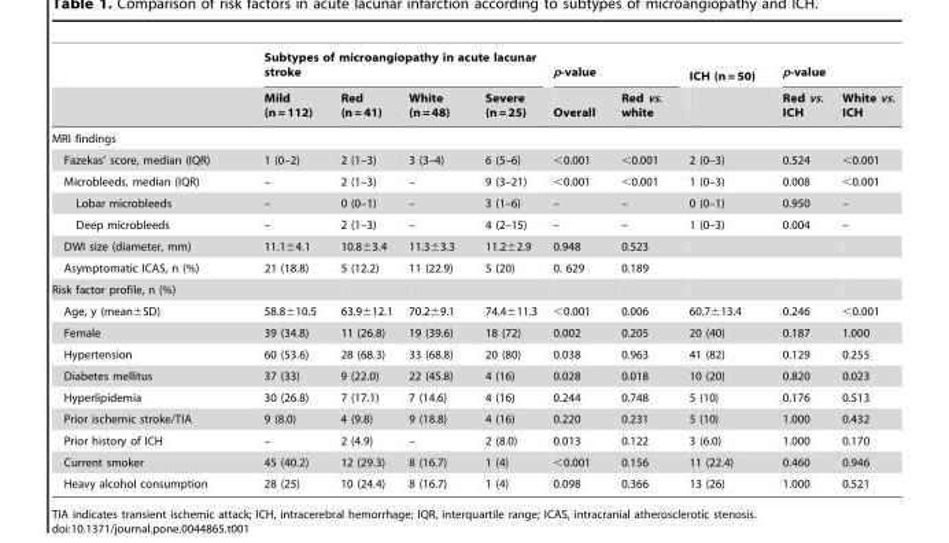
<table><thead><tr><td rowspan="2"></td><td colspan="4">Subtypes of microangiopathy in acute lacunar stroke</td><td colspan="2">p-value</td><td rowspan="2">ICH (n = 50)</td><td colspan="2">p-value</td></tr><tr><td>Mild (n = 112)</td><td>Red (n = 41)</td><td>White (n = 48)</td><td>Severe (n = 25)</td><td>Overall</td><td>Red vs. white</td><td>Red vs. ICH</td><td>White vs. ICH</td></tr></thead><tbody><tr><td colspan="10">MRI findings</td></tr><tr><td>Fazekas’ score, median (IQR)</td><td>1 (0–2)</td><td>2 (1–3)</td><td>3 (3–4)</td><td>6 (5–6)</td><td>&lt;0.001</td><td>&lt;0.001</td><td>2 (0–3)</td><td>0.524</td><td>&lt;0.001</td></tr><tr><td>Microbleeds, median (IQR)</td><td>–</td><td>2 (1–3)</td><td>–</td><td>9 (3–21)</td><td>&lt;0.001</td><td>&lt;0.001</td><td>1 (0–3)</td><td>0.008</td><td>&lt;0.001</td></tr><tr><td>Lobar microbleeds</td><td>–</td><td>0 (0–1)</td><td>–</td><td>3 (1–6)</td><td>–</td><td>–</td><td>0 (0–1)</td><td>0.950</td><td>–</td></tr><tr><td>Deep microbleeds</td><td>–</td><td>2 (1–3)</td><td>–</td><td>4 (2–15)</td><td>–</td><td>–</td><td>1 (0–3)</td><td>0.004</td><td>–</td></tr><tr><td>DWI size (diameter, mm)</td><td>11.1±4.1</td><td>10.8±3.4</td><td>11.3±3.3</td><td>11.2±2.9</td><td>0.948</td><td>0.523</td><td></td><td></td><td></td></tr><tr><td>Asymptomatic ICAS, n (%)</td><td>21 (18.8)</td><td>5 (12.2)</td><td>11 (22.9)</td><td>5 (20)</td><td>0. 629</td><td>0.189</td><td></td><td></td><td></td></tr><tr><td colspan="10">Risk factor profile, n (%)</td></tr><tr><td>Age, y (mean±SD)</td><td>58.8±10.5</td><td>63.9±12.1</td><td>70.2±9.1</td><td>74.4±11.3</td><td>&lt;0.001</td><td>0.006</td><td>60.7±13.4</td><td>0.246</td><td>&lt;0.001</td></tr><tr><td>Female</td><td>39 (34.8)</td><td>11 (26.8)</td><td>19 (39.6)</td><td>18 (72)</td><td>0.002</td><td>0.205</td><td>20 (40)</td><td>0.187</td><td>1.000</td></tr><tr><td>Hypertension</td><td>60 (53.6)</td><td>28 (68.3)</td><td>33 (68.8)</td><td>20 (80)</td><td>0.038</td><td>0.963</td><td>41 (82)</td><td>0.129</td><td>0.255</td></tr><tr><td>Diabetes mellitus</td><td>37 (33)</td><td>9 (22.0)</td><td>22 (45.8)</td><td>4 (16)</td><td>0.028</td><td>0.018</td><td>10 (20)</td><td>0.820</td><td>0.023</td></tr><tr><td>Hyperlipidemia</td><td>30 (26.8)</td><td>7 (17.1)</td><td>7 (14.6)</td><td>4 (16)</td><td>0.244</td><td>0.748</td><td>5 (10)</td><td>0.176</td><td>0.513</td></tr><tr><td>Prior ischemic stroke/TIA</td><td>9 (8.0)</td><td>4 (9.8)</td><td>9 (18.8)</td><td>4 (16)</td><td>0.220</td><td>0.231</td><td>5 (10)</td><td>1.000</td><td>0.432</td></tr><tr><td>Prior history of ICH</td><td>–</td><td>2 (4.9)</td><td>–</td><td>2 (8.0)</td><td>0.013</td><td>0.122</td><td>3 (6.0)</td><td>1.000</td><td>0.170</td></tr><tr><td>Current smoker</td><td>45 (40.2)</td><td>12 (29.3)</td><td>8 (16.7)</td><td>1 (4)</td><td>&lt;0.001</td><td>0.156</td><td>11 (22.4)</td><td>0.460</td><td>0.946</td></tr><tr><td>Heavy alcohol consumption</td><td>28 (25)</td><td>10 (24.4)</td><td>8 (16.7)</td><td>1 (4)</td><td>0.098</td><td>0.366</td><td>13 (26)</td><td>1.000</td><td>0.521</td></tr></tbody></table>